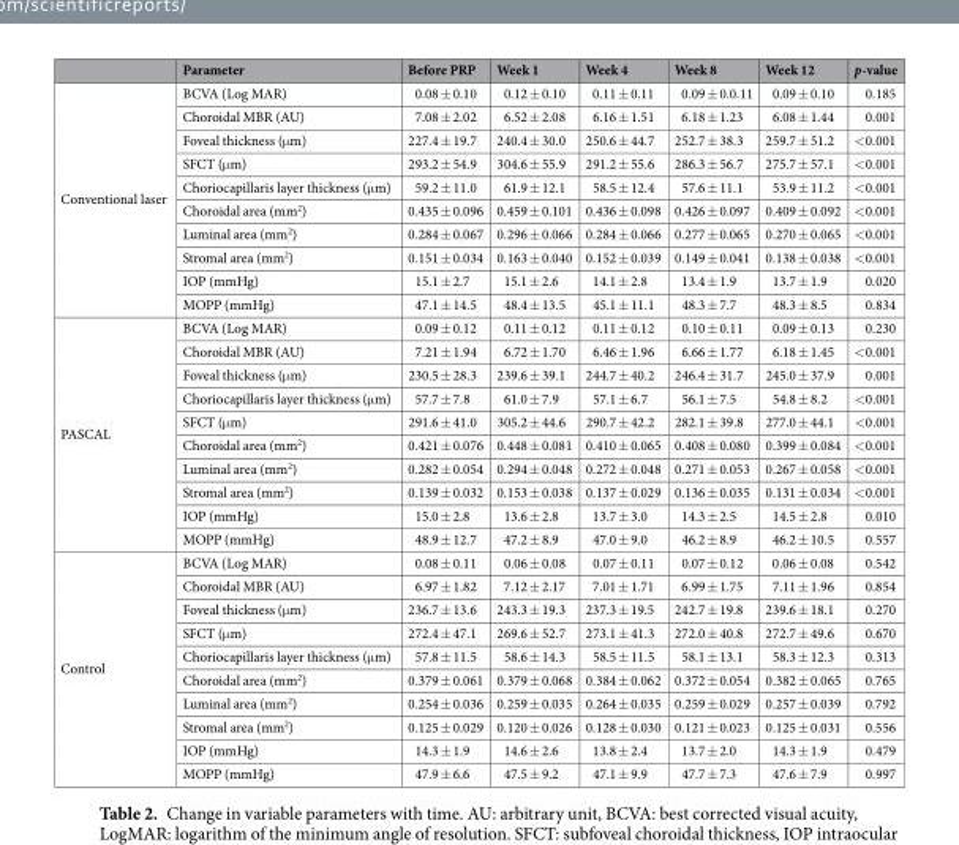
<table><thead><tr><td></td><td>Parameter</td><td>Before PRP</td><td>Week 1</td><td>Week 4</td><td>Week 8</td><td>Week 12</td><td>p-value</td></tr></thead><tbody><tr><td rowspan="10">Conventional laser</td><td>BCVA (Log MAR)</td><td>0.08 ± 0.10</td><td>0.12 ± 0.10</td><td>0.11 ± 0.11</td><td>0.09 ± 0.0.11</td><td>0.09 ± 0.10</td><td>0.185</td></tr><tr><td>Choroidal MBR (AU)</td><td>7.08 ± 2.02</td><td>6.52 ± 2.08</td><td>6.16 ± 1.51</td><td>6.18 ± 1.23</td><td>6.08 ± 1.44</td><td>0.001</td></tr><tr><td>Foveal thickness (μm)</td><td>227.4 ± 19.7</td><td>240.4 ± 30.0</td><td>250.6 ± 44.7</td><td>252.7 ± 38.3</td><td>259.7 ± 51.2</td><td>&lt;0.001</td></tr><tr><td>SFCT (μm)</td><td>293.2 ± 54.9</td><td>304.6 ± 55.9</td><td>291.2 ± 55.6</td><td>286.3 ± 56.7</td><td>275.7 ± 57.1</td><td>&lt;0.001</td></tr><tr><td>Choriocapillaris layer thickness (μm)</td><td>59.2 ± 11.0</td><td>61.9 ± 12.1</td><td>58.5 ± 12.4</td><td>57.6 ± 11.1</td><td>53.9 ± 11.2</td><td>&lt;0.001</td></tr><tr><td>Choroidal area (mm<sup>2</sup>)</td><td>0.435 ± 0.096</td><td>0.459 ± 0.101</td><td>0.436 ± 0.098</td><td>0.426 ± 0.097</td><td>0.409 ± 0.092</td><td>&lt;0.001</td></tr><tr><td>Luminal area (mm<sup>2</sup>)</td><td>0.284 ± 0.067</td><td>0.296 ± 0.066</td><td>0.284 ± 0.066</td><td>0.277 ± 0.065</td><td>0.270 ± 0.065</td><td>&lt;0.001</td></tr><tr><td>Stromal area (mm<sup>2</sup>)</td><td>0.151 ± 0.034</td><td>0.163 ± 0.040</td><td>0.152 ± 0.039</td><td>0.149 ± 0.041</td><td>0.138 ± 0.038</td><td>&lt;0.001</td></tr><tr><td>IOP (mmHg)</td><td>15.1 ± 2.7</td><td>15.1 ± 2.6</td><td>14.1 ± 2.8</td><td>13.4 ± 1.9</td><td>13.7 ± 1.9</td><td>0.020</td></tr><tr><td>MOPP (mmHg)</td><td>47.1 ± 14.5</td><td>48.4 ± 13.5</td><td>45.1 ± 11.1</td><td>48.3 ± 7.7</td><td>48.3 ± 8.5</td><td>0.834</td></tr><tr><td rowspan="10">PASCAL</td><td>BCVA (Log MAR)</td><td>0.09 ± 0.12</td><td>0.11 ± 0.12</td><td>0.11 ± 0.12</td><td>0.10 ± 0.11</td><td>0.09 ± 0.13</td><td>0.230</td></tr><tr><td>Choroidal MBR (AU)</td><td>7.21 ± 1.94</td><td>6.72 ± 1.70</td><td>6.46 ± 1.96</td><td>6.66 ± 1.77</td><td>6.18 ± 1.45</td><td>&lt;0.001</td></tr><tr><td>Foveal thickness (μm)</td><td>230.5 ± 28.3</td><td>239.6 ± 39.1</td><td>244.7 ± 40.2</td><td>246.4 ± 31.7</td><td>245.0 ± 37.9</td><td>0.001</td></tr><tr><td>Choriocapillaris layer thickness (μm)</td><td>57.7 ± 7.8</td><td>61.0 ± 7.9</td><td>57.1 ± 6.7</td><td>56.1 ± 7.5</td><td>54.8 ± 8.2</td><td>&lt;0.001</td></tr><tr><td>SFCT (μm)</td><td>291.6 ± 41.0</td><td>305.2 ± 44.6</td><td>290.7 ± 42.2</td><td>282.1 ± 39.8</td><td>277.0 ± 44.1</td><td>&lt;0.001</td></tr><tr><td>Choroidal area (mm<sup>2</sup>)</td><td>0.421 ± 0.076</td><td>0.448 ± 0.081</td><td>0.410 ± 0.065</td><td>0.408 ± 0.080</td><td>0.399 ± 0.084</td><td>&lt;0.001</td></tr><tr><td>Luminal area (mm<sup>2</sup>)</td><td>0.282 ± 0.054</td><td>0.294 ± 0.048</td><td>0.272 ± 0.048</td><td>0.271 ± 0.053</td><td>0.267 ± 0.058</td><td>&lt;0.001</td></tr><tr><td>Stromal area (mm<sup>2</sup>)</td><td>0.139 ± 0.032</td><td>0.153 ± 0.038</td><td>0.137 ± 0.029</td><td>0.136 ± 0.035</td><td>0.131 ± 0.034</td><td>&lt;0.001</td></tr><tr><td>IOP (mmHg)</td><td>15.0 ± 2.8</td><td>13.6 ± 2.8</td><td>13.7 ± 3.0</td><td>14.3 ± 2.5</td><td>14.5 ± 2.8</td><td>0.010</td></tr><tr><td>MOPP (mmHg)</td><td>48.9 ± 12.7</td><td>47.2 ± 8.9</td><td>47.0 ± 9.0</td><td>46.2 ± 8.9</td><td>46.2 ± 10.5</td><td>0.557</td></tr><tr><td rowspan="10">Control</td><td>BCVA (Log MAR)</td><td>0.08 ± 0.11</td><td>0.06 ± 0.08</td><td>0.07 ± 0.11</td><td>0.07 ± 0.12</td><td>0.06 ± 0.08</td><td>0.542</td></tr><tr><td>Choroidal MBR (AU)</td><td>6.97 ± 1.82</td><td>7.12 ± 2.17</td><td>7.01 ± 1.71</td><td>6.99 ± 1.75</td><td>7.11 ± 1.96</td><td>0.854</td></tr><tr><td>Foveal thickness (μm)</td><td>236.7 ± 13.6</td><td>243.3 ± 19.3</td><td>237.3 ± 19.5</td><td>242.7 ± 19.8</td><td>239.6 ± 18.1</td><td>0.270</td></tr><tr><td>SFCT (μm)</td><td>272.4 ± 47.1</td><td>269.6 ± 52.7</td><td>273.1 ± 41.3</td><td>272.0 ± 40.8</td><td>272.7 ± 49.6</td><td>0.670</td></tr><tr><td>Choriocapillaris layer thickness (μm)</td><td>57.8 ± 11.5</td><td>58.6 ± 14.3</td><td>58.5 ± 11.5</td><td>58.1 ± 13.1</td><td>58.3 ± 12.3</td><td>0.313</td></tr><tr><td>Choroidal area (mm<sup>2</sup>)</td><td>0.379 ± 0.061</td><td>0.379 ± 0.068</td><td>0.384 ± 0.062</td><td>0.372 ± 0.054</td><td>0.382 ± 0.065</td><td>0.765</td></tr><tr><td>Luminal area (mm<sup>2</sup>)</td><td>0.254 ± 0.036</td><td>0.259 ± 0.035</td><td>0.264 ± 0.035</td><td>0.259 ± 0.029</td><td>0.257 ± 0.039</td><td>0.792</td></tr><tr><td>Stromal area (mm<sup>2</sup>)</td><td>0.125 ± 0.029</td><td>0.120 ± 0.026</td><td>0.128 ± 0.030</td><td>0.121 ± 0.023</td><td>0.125 ± 0.031</td><td>0.556</td></tr><tr><td>IOP (mmHg)</td><td>14.3 ± 1.9</td><td>14.6 ± 2.6</td><td>13.8 ± 2.4</td><td>13.7 ± 2.0</td><td>14.3 ± 1.9</td><td>0.479</td></tr><tr><td>MOPP (mmHg)</td><td>47.9 ± 6.6</td><td>47.5 ± 9.2</td><td>47.1 ± 9.9</td><td>47.7 ± 7.3</td><td>47.6 ± 7.9</td><td>0.997</td></tr></tbody></table>